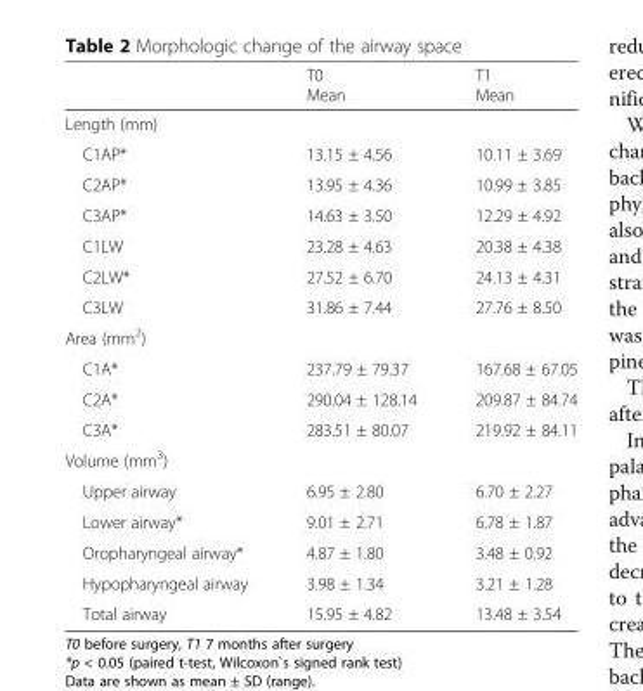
<table><thead><tr><td></td><td>T0 Mean</td><td>T1 Mean</td></tr></thead><tbody><tr><td colspan="3">Length (mm)</td></tr><tr><td>C1AP*</td><td>13.15 ± 4.56</td><td>10.11 ± 3.69</td></tr><tr><td>C2AP*</td><td>13.95 ± 4.36</td><td>10.99 ± 3.85</td></tr><tr><td>C3AP*</td><td>14.63 ± 3.50</td><td>12.29 ± 4.92</td></tr><tr><td>C1LW</td><td>23.28 ± 4.63</td><td>20.38 ± 4.38</td></tr><tr><td>C2LW*</td><td>27.52 ± 6.70</td><td>24.13 ± 4.31</td></tr><tr><td>C3LW</td><td>31.86 ± 7.44</td><td>27.76 ± 8.50</td></tr><tr><td colspan="3">Area (mm<sup>2</sup>)</td></tr><tr><td>C1A*</td><td>237.79 ± 79.37</td><td>167.68 ± 67.05</td></tr><tr><td>C2A*</td><td>290.04 ± 128.14</td><td>209.87 ± 84.74</td></tr><tr><td>C3A*</td><td>283.51 ± 80.07</td><td>219.92 ± 84.11</td></tr><tr><td colspan="3">Volume (mm<sup>3</sup>)</td></tr><tr><td>Upper airway</td><td>6.95 ± 2.80</td><td>6.70 ± 2.27</td></tr><tr><td>Lower airway*</td><td>9.01 ± 2.71</td><td>6.78 ± 1.87</td></tr><tr><td>Oropharyngeal airway*</td><td>4.87 ± 1.80</td><td>3.48 ± 0.92</td></tr><tr><td>Hypopharyngeal airway</td><td>3.98 ± 1.34</td><td>3.21 ± 1.28</td></tr><tr><td>Total airway</td><td>15.95 ± 4.82</td><td>13.48 ± 3.54</td></tr></tbody></table>